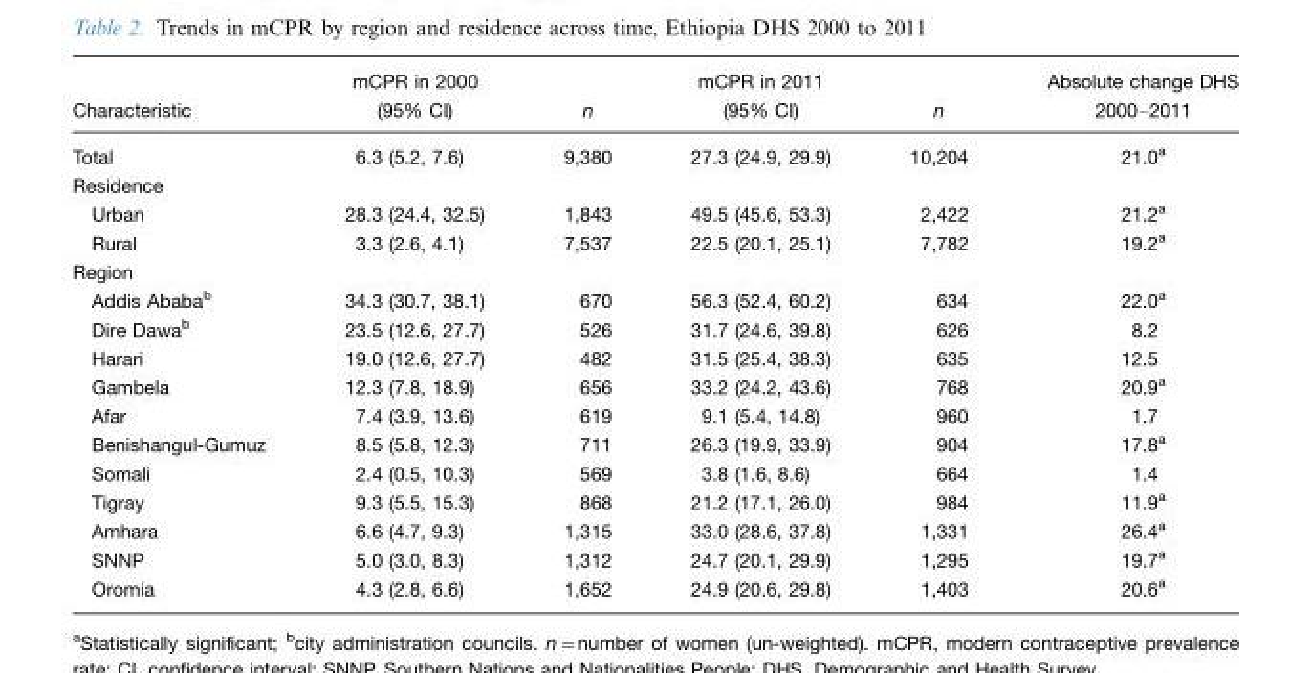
<table><thead><tr><td>Characteristic</td><td>mCPR in 2000 (95% CI)</td><td>n</td><td>mCPR in 2011 (95% CI)</td><td>n</td><td>Absolute change DHS 2000–2011</td></tr></thead><tbody><tr><td>Total</td><td>6.3 (5.2, 7.6)</td><td>9,380</td><td>27.3 (24.9, 29.9)</td><td>10,204</td><td>21.0a</td></tr><tr><td colspan="6">Residence</td></tr><tr><td>Urban</td><td>28.3 (24.4, 32.5)</td><td>1,843</td><td>49.5 (45.6, 53.3)</td><td>2,422</td><td>21.2a</td></tr><tr><td>Rural</td><td>3.3 (2.6, 4.1)</td><td>7,537</td><td>22.5 (20.1, 25.1)</td><td>7,782</td><td>19.2a</td></tr><tr><td colspan="6">Region</td></tr><tr><td>Addis Ababab</td><td>34.3 (30.7, 38.1)</td><td>670</td><td>56.3 (52.4, 60.2)</td><td>634</td><td>22.0a</td></tr><tr><td>Dire Dawab</td><td>23.5 (12.6, 27.7)</td><td>526</td><td>31.7 (24.6, 39.8)</td><td>626</td><td>8.2</td></tr><tr><td>Harari</td><td>19.0 (12.6, 27.7)</td><td>482</td><td>31.5 (25.4, 38.3)</td><td>635</td><td>12.5</td></tr><tr><td>Gambela</td><td>12.3 (7.8, 18.9)</td><td>656</td><td>33.2 (24.2, 43.6)</td><td>768</td><td>20.9a</td></tr><tr><td>Afar</td><td>7.4 (3.9, 13.6)</td><td>619</td><td>9.1 (5.4, 14.8)</td><td>960</td><td>1.7</td></tr><tr><td>Benishangul-Gumuz</td><td>8.5 (5.8, 12.3)</td><td>711</td><td>26.3 (19.9, 33.9)</td><td>904</td><td>17.8a</td></tr><tr><td>Somali</td><td>2.4 (0.5, 10.3)</td><td>569</td><td>3.8 (1.6, 8.6)</td><td>664</td><td>1.4</td></tr><tr><td>Tigray</td><td>9.3 (5.5, 15.3)</td><td>868</td><td>21.2 (17.1, 26.0)</td><td>984</td><td>11.9a</td></tr><tr><td>Amhara</td><td>6.6 (4.7, 9.3)</td><td>1,315</td><td>33.0 (28.6, 37.8)</td><td>1,331</td><td>26.4a</td></tr><tr><td>SNNP</td><td>5.0 (3.0, 8.3)</td><td>1,312</td><td>24.7 (20.1, 29.9)</td><td>1,295</td><td>19.7a</td></tr><tr><td>Oromia</td><td>4.3 (2.8, 6.6)</td><td>1,652</td><td>24.9 (20.6, 29.8)</td><td>1,403</td><td>20.6a</td></tr></tbody></table>